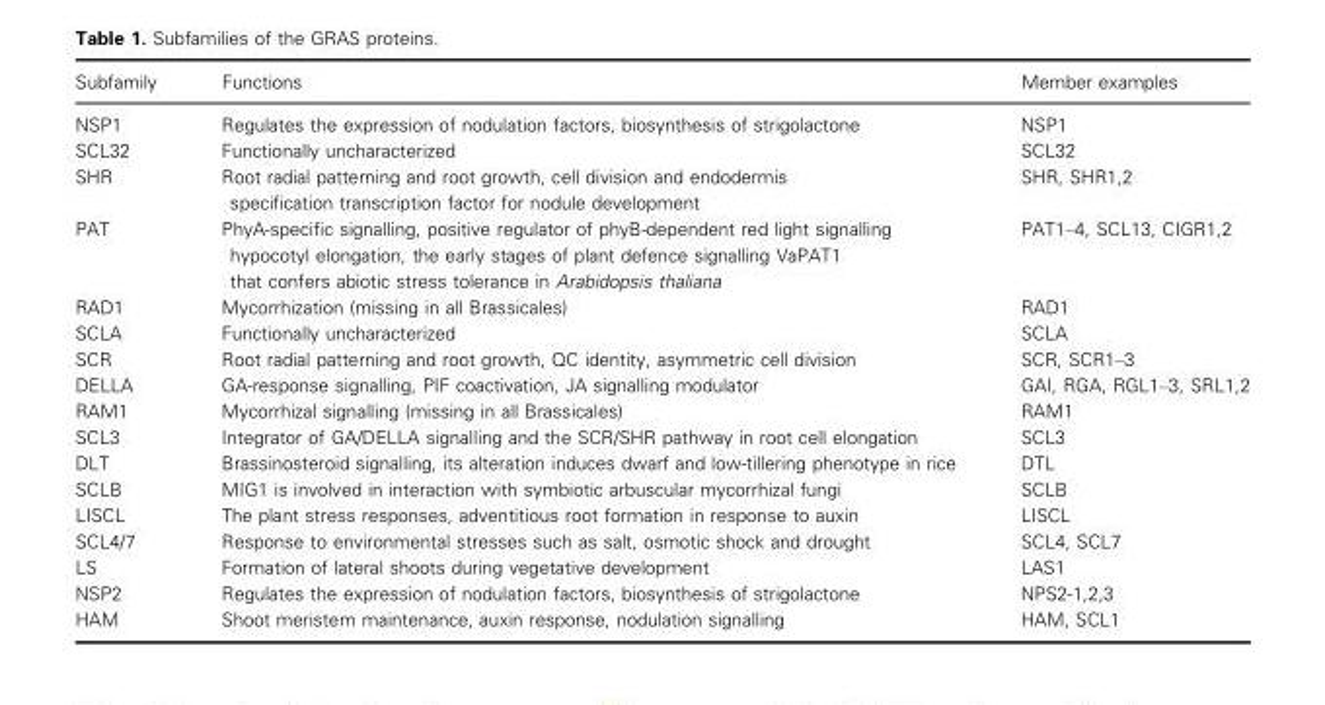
<table><thead><tr><td>Subfamily</td><td>Functions</td><td>Member examples</td></tr></thead><tbody><tr><td>NSP1</td><td>Regulates the expression of nodulation factors, biosynthesis of strigolactone</td><td>NSP1</td></tr><tr><td>SCL32</td><td>Functionally uncharacterized</td><td>SCL32</td></tr><tr><td>SHR</td><td>Root radial patterning and root growth, cell division and endodermis specification transcription factor for nodule development</td><td>SHR, SHR1,2</td></tr><tr><td>PAT</td><td>PhyA-specific signalling, positive regulator of phyB-dependent red light signalling hypocotyl elongation, the early stages of plant defence signalling VaPAT1 that confers abiotic stress tolerance in Arabidopsis thaliana</td><td>PAT1–4, SCL13, CIGR1,2</td></tr><tr><td>RAD1</td><td>Mycorrhization (missing in all Brassicales)</td><td>RAD1</td></tr><tr><td>SCLA</td><td>Functionally uncharacterized</td><td>SCLA</td></tr><tr><td>SCR</td><td>Root radial patterning and root growth, QC identity, asymmetric cell division</td><td>SCR, SCR1–3</td></tr><tr><td>DELLA</td><td>GA-response signalling, PIF coactivation, JA signalling modulator</td><td>GAI, RGA, RGL1–3, SRL1,2</td></tr><tr><td>RAM1</td><td>Mycorrhizal signalling (missing in all Brassicales)</td><td>RAM1</td></tr><tr><td>SCL3</td><td>Integrator of GA/DELLA signalling and the SCR/SHR pathway in root cell elongation</td><td>SCL3</td></tr><tr><td>DLT</td><td>Brassinosteroid signalling, its alteration induces dwarf and low-tillering phenotype in rice</td><td>DTL</td></tr><tr><td>SCLB</td><td>MIG1 is involved in interaction with symbiotic arbuscular mycorrhizal fungi</td><td>SCLB</td></tr><tr><td>LISCL</td><td>The plant stress responses, adventitious root formation in response to auxin</td><td>LISCL</td></tr><tr><td>SCL4/7</td><td>Response to environmental stresses such as salt, osmotic shock and drought</td><td>SCL4, SCL7</td></tr><tr><td>LS</td><td>Formation of lateral shoots during vegetative development</td><td>LAS1</td></tr><tr><td>NSP2</td><td>Regulates the expression of nodulation factors, biosynthesis of strigolactone</td><td>NPS2-1,2,3</td></tr><tr><td>HAM</td><td>Shoot meristem maintenance, auxin response, nodulation signalling</td><td>HAM, SCL1</td></tr></tbody></table>